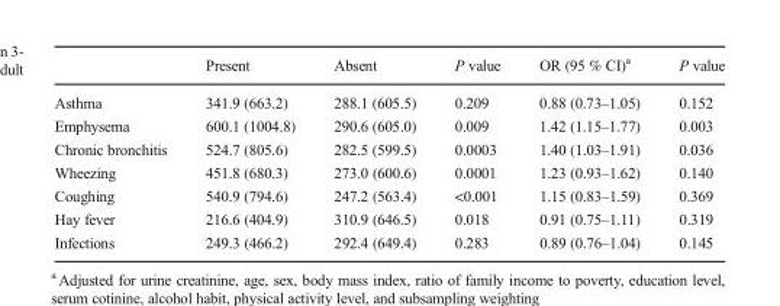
<table><thead><tr><td></td><td>Present</td><td>Absent</td><td>P value</td><td>OR (95 % CI)<sup>a</sup></td><td>P value</td></tr></thead><tbody><tr><td>Asthma</td><td>341.9 (663.2)</td><td>288.1 (605.5)</td><td>0.209</td><td>0.88 (0.73–1.05)</td><td>0.152</td></tr><tr><td>Emphysema</td><td>600.1 (1004.8)</td><td>290.6 (605.0)</td><td>0.009</td><td>1.42 (1.15–1.77)</td><td>0.003</td></tr><tr><td>Chronic bronchitis</td><td>524.7 (805.6)</td><td>282.5 (599.5)</td><td>0.0003</td><td>1.40 (1.03–1.91)</td><td>0.036</td></tr><tr><td>Wheezing</td><td>451.8 (680.3)</td><td>273.0 (600.6)</td><td>0.0001</td><td>1.23 (0.93–1.62)</td><td>0.140</td></tr><tr><td>Coughing</td><td>540.9 (794.6)</td><td>247.2 (563.4)</td><td>&lt;0.001</td><td>1.15 (0.83–1.59)</td><td>0.369</td></tr><tr><td>Hay fever</td><td>216.6 (404.9)</td><td>310.9 (646.5)</td><td>0.018</td><td>0.91 (0.75–1.11)</td><td>0.319</td></tr><tr><td>Infections</td><td>249.3 (466.2)</td><td>292.4 (649.4)</td><td>0.283</td><td>0.89 (0.76–1.04)</td><td>0.145</td></tr></tbody></table>